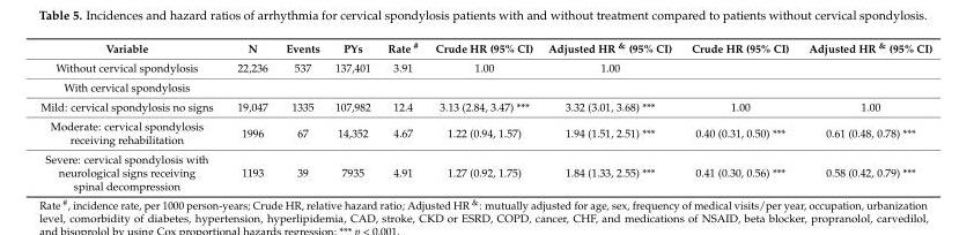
<table><thead><tr><td>Variable</td><td>N</td><td>Events</td><td>PYs</td><td>Rate <sup>#</sup></td><td>Crude HR (95% CI)</td><td>Adjusted HR <sup>&amp;</sup> (95% CI)</td><td>Crude HR (95% CI)</td><td>Adjusted HR <sup>&amp;</sup> (95% CI)</td></tr></thead><tbody><tr><td>Without cervical spondylosis</td><td>22,236</td><td>537</td><td>137,401</td><td>3.91</td><td>1.00</td><td>1.00</td><td></td><td></td></tr><tr><td colspan="9">With cervical spondylosis</td></tr><tr><td>Mild: cervical spondylosis no signs</td><td>19,047</td><td>1335</td><td>107,982</td><td>12.4</td><td>3.13 (2.84, 3.47) ***</td><td>3.32 (3.01, 3.68) ***</td><td>1.00</td><td>1.00</td></tr><tr><td>Moderate: cervical spondylosis receiving rehabilitation</td><td>1996</td><td>67</td><td>14,352</td><td>4.67</td><td>1.22 (0.94, 1.57)</td><td>1.94 (1.51, 2.51) ***</td><td>0.40 (0.31, 0.50) ***</td><td>0.61 (0.48, 0.78) ***</td></tr><tr><td>Severe: cervical spondylosis with neurological signs receiving spinal decompression</td><td>1193</td><td>39</td><td>7935</td><td>4.91</td><td>1.27 (0.92, 1.75)</td><td>1.84 (1.33, 2.55) ***</td><td>0.41 (0.30, 0.56) ***</td><td>0.58 (0.42, 0.79) ***</td></tr></tbody></table>